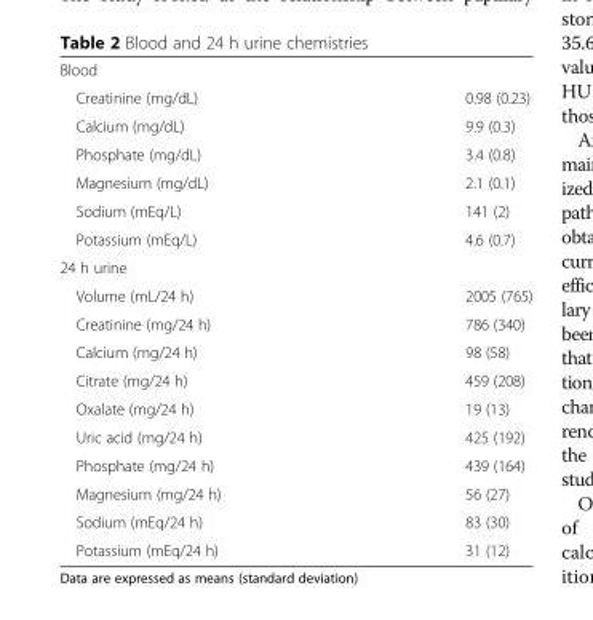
<table><tbody><tr><td colspan="2">Blood</td></tr><tr><td>Creatinine (mg/dL)</td><td>0.98 (0.23)</td></tr><tr><td>Calcium (mg/dL)</td><td>9.9 (0.3)</td></tr><tr><td>Phosphate (mg/dL)</td><td>3.4 (0.8)</td></tr><tr><td>Magnesium (mg/dL)</td><td>2.1 (0.1)</td></tr><tr><td>Sodium (mEq/L)</td><td>141 (2)</td></tr><tr><td>Potassium (mEq/L)</td><td>4.6 (0.7)</td></tr><tr><td colspan="2">24 h urine</td></tr><tr><td>Volume (mL/24 h)</td><td>2005 (765)</td></tr><tr><td>Creatinine (mg/24 h)</td><td>786 (340)</td></tr><tr><td>Calcium (mg/24 h)</td><td>98 (58)</td></tr><tr><td>Citrate (mg/24 h)</td><td>459 (208)</td></tr><tr><td>Oxalate (mg/24 h)</td><td>19 (13)</td></tr><tr><td>Uric acid (mg/24 h)</td><td>425 (192)</td></tr><tr><td>Phosphate (mg/24 h)</td><td>439 (164)</td></tr><tr><td>Magnesium (mg/24 h)</td><td>56 (27)</td></tr><tr><td>Sodium (mEq/24 h)</td><td>83 (30)</td></tr><tr><td>Potassium (mEq/24 h)</td><td>31 (12)</td></tr></tbody></table>